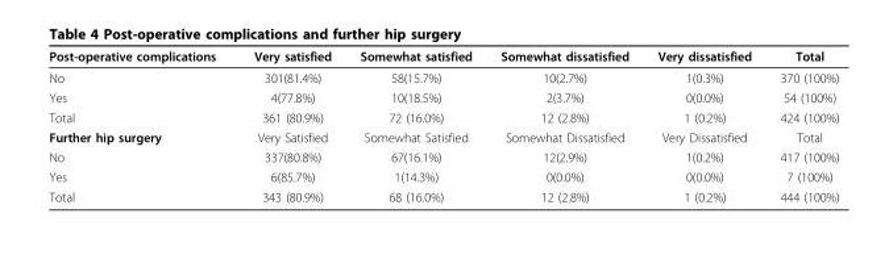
<table><thead><tr><td>Post-operative complications</td><td>Very satisfied</td><td>Somewhat satisfied</td><td>Somewhat dissatisfied</td><td>Very dissatisfied</td><td>Total</td></tr></thead><tbody><tr><td>No</td><td>301(81.4%)</td><td>58(15.7%)</td><td>10(2.7%)</td><td>1(0.3%)</td><td>370 (100%)</td></tr><tr><td>Yes</td><td>4(77.8%)</td><td>10(18.5%)</td><td>2(3.7%)</td><td>0(0.0%)</td><td>54 (100%)</td></tr><tr><td>Total</td><td>361 (80.9%)</td><td>72 (16.0%)</td><td>12 (2.8%)</td><td>1 (0.2%)</td><td>424 (100%)</td></tr><tr><td>Further hip surgery</td><td>Very Satisfied</td><td>Somewhat Satisfied</td><td>Somewhat Dissatisfied</td><td>Very Dissatisfied</td><td>Total</td></tr><tr><td>No</td><td>337(80.8%)</td><td>67(16.1%)</td><td>12(2.9%)</td><td>1(0.2%)</td><td>417 (100%)</td></tr><tr><td>Yes</td><td>6(85.7%)</td><td>1(14.3%)</td><td>0(0.0%)</td><td>0(0.0%)</td><td>7 (100%)</td></tr><tr><td>Total</td><td>343 (80.9%)</td><td>68 (16.0%)</td><td>12 (2.8%)</td><td>1 (0.2%)</td><td>444 (100%)</td></tr></tbody></table>